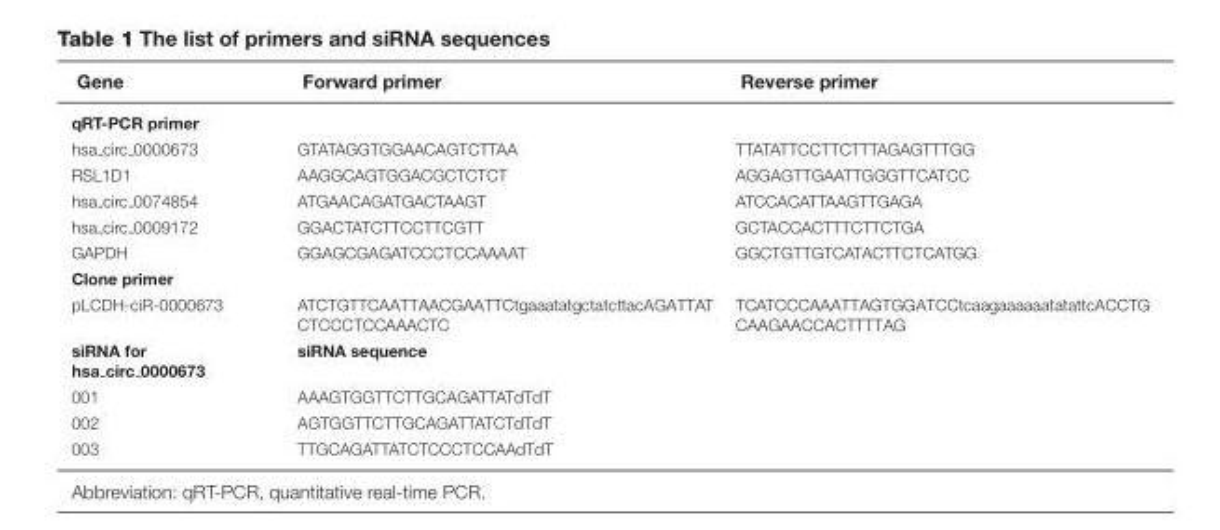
<table><thead><tr><td>Gene</td><td>Forward primer</td><td>Reverse primer</td></tr></thead><tbody><tr><td colspan="3">qRT-PCR primer</td></tr><tr><td>hsa circ 0000673</td><td>GTATAGGTGGAACAGTCTTAA</td><td>TTATATTCCTTCTTTAGAGTTTGG</td></tr><tr><td>RSL1D1</td><td>AAGGCAGTGGACGCTCTCT</td><td>AGGAGTTGAATTGGGTTCATCC</td></tr><tr><td>hsa circ 0074854</td><td>ATGAACAGATGACTAAGT</td><td>ATCCACATTAAGTTGAGA</td></tr><tr><td>hsa circ 0009172</td><td>GGACTATCTTCCTTCGTT</td><td>GCTACCACTTTCTTCTGA</td></tr><tr><td>GAPDH</td><td>GGAGCGAGATCCCTCCAAAAT</td><td>GGCTGTTGTCATACTTCTCATGG</td></tr><tr><td colspan="3">Clone primer</td></tr><tr><td>pLCDH-ciR-0000673</td><td>ATCTGTTCAATTAACGAATTCtgaaatatgctatcttacAGATTAT CTCCCTCCAAACTC</td><td>TCATCCCAAATTAGTGGATCCtcaagaaaaaatatattcACCTG CAAGAACCACTTTTAG</td></tr><tr><td>siRNA for hsa circ 0000673</td><td>siRNA sequence</td><td></td></tr><tr><td>001</td><td>AAAGTGGTTCTTGCAGATTATdTdT</td><td></td></tr><tr><td>002</td><td>AGTGGTTCTTGCAGATTATCTdTdT</td><td></td></tr><tr><td>003</td><td>TTGCAGATTATCTCCCTCCAAdTdT</td><td></td></tr></tbody></table>